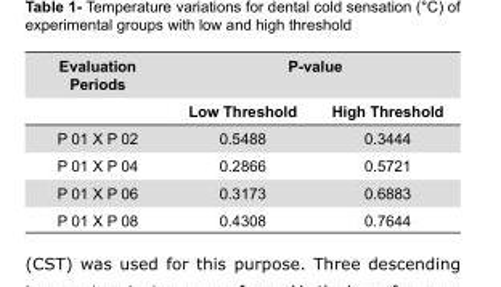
<table><thead><tr><td rowspan="2">Evaluation Periods</td><td colspan="2">P-value</td></tr><tr><td>Low Threshold</td><td>High Threshold</td></tr></thead><tbody><tr><td>P 01 X P 02</td><td>0.5488</td><td>0.3444</td></tr><tr><td>P 01 X P 04</td><td>0.2866</td><td>0.5721</td></tr><tr><td>P 01 X P 06</td><td>0.3173</td><td>0.6883</td></tr><tr><td>P 01 X P 08</td><td>0.4308</td><td>0.7644</td></tr></tbody></table>